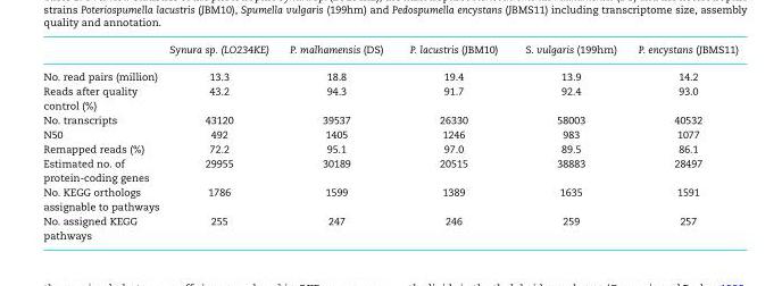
<table><thead><tr><td></td><td>Synura sp. (LO234KE)</td><td>P. malhamensis (DS)</td><td>P. lacustris (JBM10)</td><td>S. vulgaris (199hm)</td><td>P. encystans (JBMS11)</td></tr></thead><tbody><tr><td>No. read pairs (million)</td><td>13.3</td><td>18.8</td><td>19.4</td><td>13.9</td><td>14.2</td></tr><tr><td>Reads after quality control (%)</td><td>43.2</td><td>94.3</td><td>91.7</td><td>92.4</td><td>93.0</td></tr><tr><td>No. transcripts</td><td>43120</td><td>39537</td><td>26330</td><td>58003</td><td>40532</td></tr><tr><td>N50</td><td>492</td><td>1405</td><td>1246</td><td>983</td><td>1077</td></tr><tr><td>Remapped reads (%)</td><td>72.2</td><td>95.1</td><td>97.0</td><td>89.5</td><td>86.1</td></tr><tr><td>Estimated no. of protein-coding genes</td><td>29955</td><td>30189</td><td>20515</td><td>38883</td><td>28497</td></tr><tr><td>No. KEGG orthologs assignable to pathways</td><td>1786</td><td>1599</td><td>1389</td><td>1635</td><td>1591</td></tr><tr><td>No. assigned KEGG pathways</td><td>255</td><td>247</td><td>246</td><td>259</td><td>257</td></tr></tbody></table>